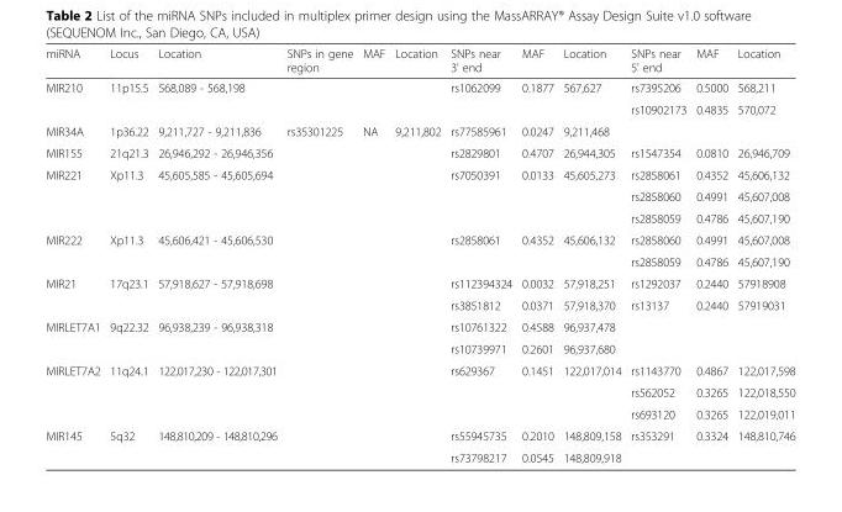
<table><thead><tr><td>miRNA</td><td>Locus</td><td>Location</td><td>SNPs in gene region</td><td>MAF</td><td>Location</td><td>SNPs near 3&#x27; end</td><td>MAF</td><td>Location</td><td>SNPs near 5&#x27; end</td><td>MAF</td><td>Location</td></tr></thead><tbody><tr><td rowspan="2">MIR210</td><td rowspan="2">11p15.5</td><td rowspan="2">568,089 - 568,198</td><td rowspan="2"></td><td rowspan="2"></td><td rowspan="2"></td><td rowspan="2">rs1062099</td><td rowspan="2">0.1877</td><td rowspan="2">567,627</td><td>rs7395206</td><td>0.5000</td><td>568,211</td></tr><tr><td>rs10902173</td><td>0.4835</td><td>570,072</td></tr><tr><td>MIR34A</td><td>1p36.22</td><td>9,211,727 - 9,211,836</td><td>rs35301225</td><td>NA</td><td>9,211,802</td><td>rs77585961</td><td>0.0247</td><td>9,211,468</td><td></td><td></td><td></td></tr><tr><td>MIR155</td><td>21q21.3</td><td>26,946,292 - 26,946,356</td><td></td><td></td><td></td><td>rs2829801</td><td>0.4707</td><td>26,944,305</td><td>rs1547354</td><td>0.0810</td><td>26,946,709</td></tr><tr><td rowspan="3">MIR221</td><td rowspan="3">Xp11.3</td><td rowspan="3">45,605,585 - 45,605,694</td><td rowspan="3"></td><td rowspan="3"></td><td rowspan="3"></td><td rowspan="3">rs7050391</td><td rowspan="3">0.0133</td><td rowspan="3">45,605,273</td><td>rs2858061</td><td>0.4352</td><td>45,606,132</td></tr><tr><td>rs2858060</td><td>0.4991</td><td>45,607,008</td></tr><tr><td>rs2858059</td><td>0.4786</td><td>45,607,190</td></tr><tr><td rowspan="2">MIR222</td><td rowspan="2">Xp11.3</td><td rowspan="2">45,606,421 - 45,606,530</td><td rowspan="2"></td><td rowspan="2"></td><td rowspan="2"></td><td rowspan="2">rs2858061</td><td rowspan="2">0.4352</td><td rowspan="2">45,606,132</td><td>rs2858060</td><td>0.4991</td><td>45,607,008</td></tr><tr><td>rs2858059</td><td>0.4786</td><td>45,607,190</td></tr><tr><td rowspan="2">MIR21</td><td rowspan="2">17q23.1</td><td rowspan="2">57,918,627 - 57,918,698</td><td rowspan="2"></td><td rowspan="2"></td><td rowspan="2"></td><td>rs112394324</td><td>0.0032</td><td>57,918,251</td><td>rs1292037</td><td>0.2440</td><td>57918908</td></tr><tr><td>rs3851812</td><td>0.0371</td><td>57,918,370</td><td>rs13137</td><td>0.2440</td><td>57919031</td></tr><tr><td rowspan="2">MIRLET7A1</td><td rowspan="2">9q22.32</td><td rowspan="2">96,938,239 - 96,938,318</td><td rowspan="2"></td><td rowspan="2"></td><td rowspan="2"></td><td>rs10761322</td><td>0.4588</td><td>96,937,478</td><td rowspan="2"></td><td rowspan="2"></td><td rowspan="2"></td></tr><tr><td>rs10739971</td><td>0.2601</td><td>96,937,680</td></tr><tr><td rowspan="3">MIRLET7A2</td><td rowspan="3">11q24.1</td><td rowspan="3">122,017,230 - 122,017,301</td><td rowspan="3"></td><td rowspan="3"></td><td rowspan="3"></td><td rowspan="3">rs629367</td><td rowspan="3">0.1451</td><td rowspan="3">122,017,014</td><td>rs1143770</td><td>0.4867</td><td>122,017,598</td></tr><tr><td>rs562052</td><td>0.3265</td><td>122,018,550</td></tr><tr><td>rs693120</td><td>0.3265</td><td>122,019,011</td></tr><tr><td rowspan="2">MIR145</td><td rowspan="2">5q32</td><td rowspan="2">148,810,209 - 148,810,296</td><td rowspan="2"></td><td rowspan="2"></td><td rowspan="2"></td><td>rs55945735</td><td>0.2010</td><td>148,809,158</td><td rowspan="2">rs353291</td><td rowspan="2">0.3324</td><td rowspan="2">148,810,746</td></tr><tr><td>rs73798217</td><td>0.0545</td><td>148,809,918</td></tr></tbody></table>